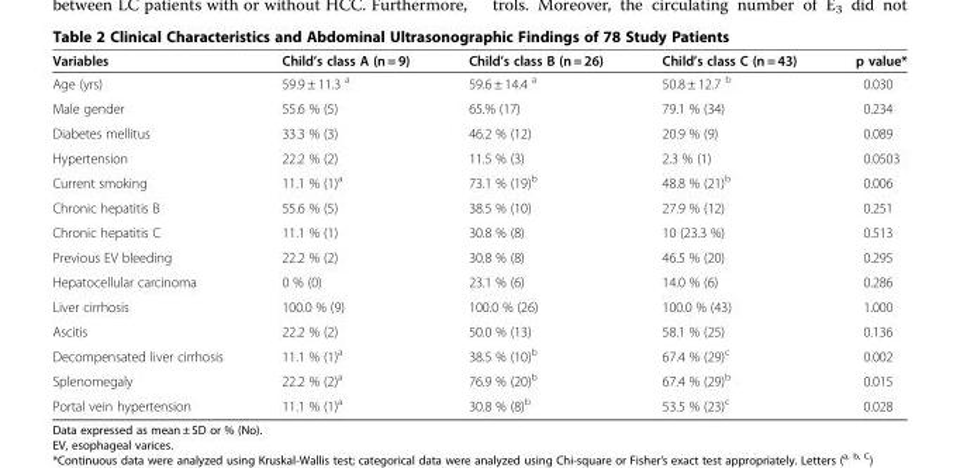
<table><thead><tr><td>Variables</td><td>Child’s class A (n = 9)</td><td>Child’s class B (n = 26)</td><td>Child’s class C (n = 43)</td><td>p value*</td></tr></thead><tbody><tr><td>Age (yrs)</td><td>59.9 ± 11.3 <sup>a</sup></td><td>59.6 ± 14.4 <sup>a</sup></td><td>50.8 ± 12.7 <sup>b</sup></td><td>0.030</td></tr><tr><td>Male gender</td><td>55.6 % (5)</td><td>65.% (17)</td><td>79.1 % (34)</td><td>0.234</td></tr><tr><td>Diabetes mellitus</td><td>33.3 % (3)</td><td>46.2 % (12)</td><td>20.9 % (9)</td><td>0.089</td></tr><tr><td>Hypertension</td><td>22.2 % (2)</td><td>11.5 % (3)</td><td>2.3 % (1)</td><td>0.0503</td></tr><tr><td>Current smoking</td><td>11.1 % (1)<sup>a</sup></td><td>73.1 % (19)<sup>b</sup></td><td>48.8 % (21)<sup>b</sup></td><td>0.006</td></tr><tr><td>Chronic hepatitis B</td><td>55.6 % (5)</td><td>38.5 % (10)</td><td>27.9 % (12)</td><td>0.251</td></tr><tr><td>Chronic hepatitis C</td><td>11.1 % (1)</td><td>30.8 % (8)</td><td>10 (23.3 %)</td><td>0.513</td></tr><tr><td>Previous EV bleeding</td><td>22.2 % (2)</td><td>30.8 % (8)</td><td>46.5 % (20)</td><td>0.295</td></tr><tr><td>Hepatocellular carcinoma</td><td>0 % (0)</td><td>23.1 % (6)</td><td>14.0 % (6)</td><td>0.286</td></tr><tr><td>Liver cirrhosis</td><td>100.0 % (9)</td><td>100.0 % (26)</td><td>100.0 % (43)</td><td>1.000</td></tr><tr><td>Ascitis</td><td>22.2 % (2)</td><td>50.0 % (13)</td><td>58.1 % (25)</td><td>0.136</td></tr><tr><td>Decompensated liver cirrhosis</td><td>11.1 % (1)<sup>a</sup></td><td>38.5 % (10)<sup>b</sup></td><td>67.4 % (29)<sup>c</sup></td><td>0.002</td></tr><tr><td>Splenomegaly</td><td>22.2 % (2)<sup>a</sup></td><td>76.9 % (20)<sup>b</sup></td><td>67.4 % (29)<sup>b</sup></td><td>0.015</td></tr><tr><td>Portal vein hypertension</td><td>11.1 % (1)<sup>a</sup></td><td>30.8 % (8)<sup>b</sup></td><td>53.5 % (23)<sup>c</sup></td><td>0.028</td></tr></tbody></table>